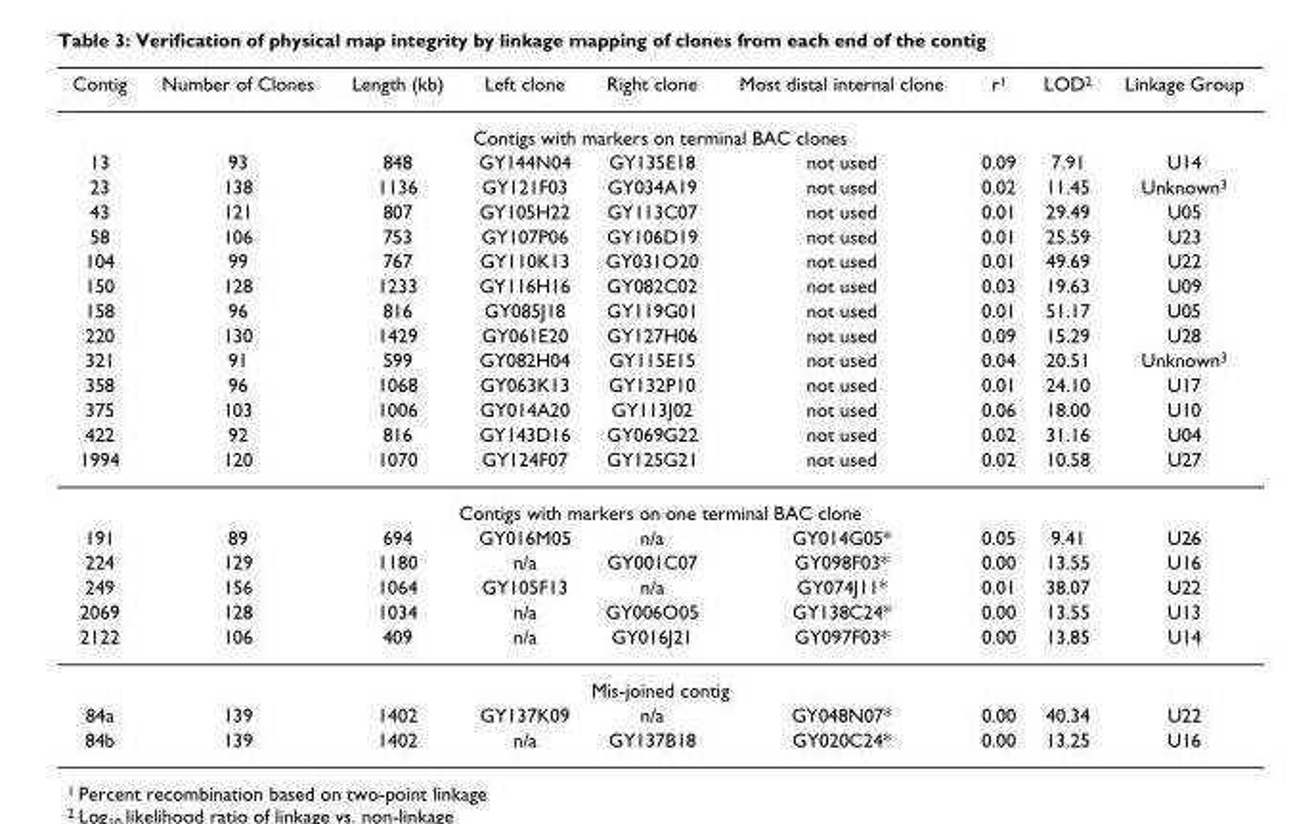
<table><thead><tr><td>Contig</td><td>Number of Clones</td><td>Length (kb)</td><td>Left clone</td><td>Right clone</td><td>Most distal internal clone</td><td>r1</td><td>LOD2</td><td>Linkage Group</td></tr></thead><tbody><tr><td colspan="9">Contigs with markers on terminal BAC clones</td></tr><tr><td>13</td><td>93</td><td>848</td><td>GY144N04</td><td>GY135E18</td><td>not used</td><td>0.09</td><td>7.91</td><td>U14</td></tr><tr><td>23</td><td>138</td><td>1136</td><td>GY121F03</td><td>GY034A19</td><td>not used</td><td>0.02</td><td>11.45</td><td>Unknown3</td></tr><tr><td>43</td><td>121</td><td>807</td><td>GY105H22</td><td>GY113C07</td><td>not used</td><td>0.01</td><td>29.49</td><td>U05</td></tr><tr><td>58</td><td>106</td><td>753</td><td>GY107P06</td><td>GY106D19</td><td>not used</td><td>0.01</td><td>25.59</td><td>U23</td></tr><tr><td>104</td><td>99</td><td>767</td><td>GY110K13</td><td>GY031O20</td><td>not used</td><td>0.01</td><td>49.69</td><td>U22</td></tr><tr><td>150</td><td>128</td><td>1233</td><td>GY116H16</td><td>GY082C02</td><td>not used</td><td>0.03</td><td>19.63</td><td>U09</td></tr><tr><td>158</td><td>96</td><td>816</td><td>GY085J18</td><td>GY119G01</td><td>not used</td><td>0.01</td><td>51.17</td><td>U05</td></tr><tr><td>220</td><td>130</td><td>1429</td><td>GY061E20</td><td>GY127H06</td><td>not used</td><td>0.09</td><td>15.29</td><td>U28</td></tr><tr><td>321</td><td>91</td><td>599</td><td>GY082H04</td><td>GY115E15</td><td>not used</td><td>0.04</td><td>20.51</td><td>Unknown3</td></tr><tr><td>358</td><td>96</td><td>1068</td><td>GY063K13</td><td>GY132P10</td><td>not used</td><td>0.01</td><td>24.10</td><td>U17</td></tr><tr><td>375</td><td>103</td><td>1006</td><td>GY014A20</td><td>GY113J02</td><td>not used</td><td>0.06</td><td>18.00</td><td>U10</td></tr><tr><td>422</td><td>92</td><td>816</td><td>GY143D16</td><td>GY069G22</td><td>not used</td><td>0.02</td><td>31.16</td><td>U04</td></tr><tr><td>1994</td><td>120</td><td>1070</td><td>GY124F07</td><td>GY125G21</td><td>not used</td><td>0.02</td><td>10.58</td><td>U27</td></tr><tr><td colspan="9">Contigs with markers on one terminal BAC clone</td></tr><tr><td>191</td><td>89</td><td>694</td><td>GY016M05</td><td>n/a</td><td>GY014G05*</td><td>0.05</td><td>9.41</td><td>U26</td></tr><tr><td>224</td><td>129</td><td>1180</td><td>n/a</td><td>GY001C07</td><td>GY098F03*</td><td>0.00</td><td>13.55</td><td>U16</td></tr><tr><td>249</td><td>156</td><td>1064</td><td>GY105F13</td><td>n/a</td><td>GY074J11*</td><td>0.01</td><td>38.07</td><td>U22</td></tr><tr><td>2069</td><td>128</td><td>1034</td><td>n/a</td><td>GY006O05</td><td>GY138C24*</td><td>0.00</td><td>13.55</td><td>U13</td></tr><tr><td>2122</td><td>106</td><td>409</td><td>n/a</td><td>GY016J21</td><td>GY097F03*</td><td>0.00</td><td>13.85</td><td>U14</td></tr><tr><td colspan="9">Mis-joined contig</td></tr><tr><td>84a</td><td>139</td><td>1402</td><td>GY137K09</td><td>n/a</td><td>GY048N07*</td><td>0.00</td><td>40.34</td><td>U22</td></tr><tr><td>84b</td><td>139</td><td>1402</td><td>n/a</td><td>GY137B18</td><td>GY020C24*</td><td>0.00</td><td>13.25</td><td>U16</td></tr></tbody></table>